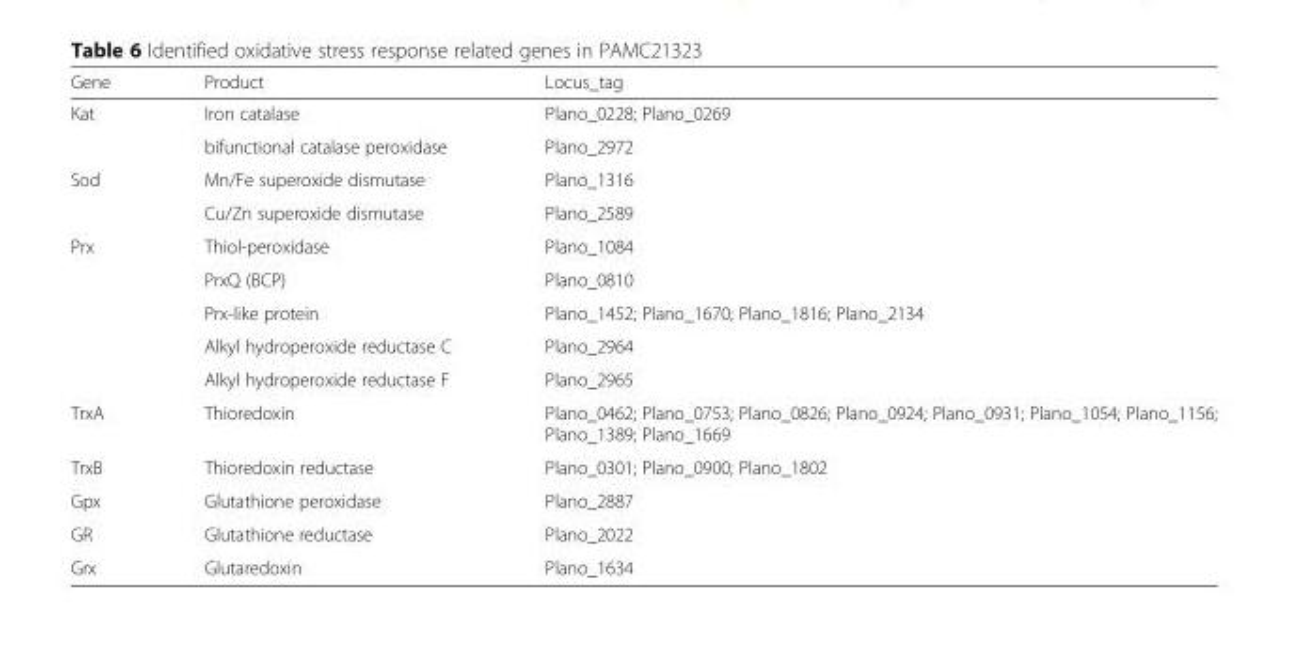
<table><thead><tr><td>Gene</td><td>Product</td><td>Locus_tag</td></tr></thead><tbody><tr><td rowspan="2">Kat</td><td>Iron catalase</td><td>Plano_0228; Plano_0269</td></tr><tr><td>bifunctional catalase peroxidase</td><td>Plano_2972</td></tr><tr><td rowspan="2">Sod</td><td>Mn/Fe superoxide dismutase</td><td>Plano_1316</td></tr><tr><td>Cu/Zn superoxide dismutase</td><td>Plano_2589</td></tr><tr><td rowspan="5">Prx</td><td>Thiol-peroxidase</td><td>Plano_1084</td></tr><tr><td>PrxQ (BCP)</td><td>Plano_0810</td></tr><tr><td>Prx-like protein</td><td>Plano_1452; Plano_1670; Plano_1816; Plano_2134</td></tr><tr><td>Alkyl hydroperoxide reductase C</td><td>Plano_2964</td></tr><tr><td>Alkyl hydroperoxide reductase F</td><td>Plano_2965</td></tr><tr><td>TrxA</td><td>Thioredoxin</td><td>Plano_0462; Plano_0753; Plano_0826; Plano_0924; Plano_0931; Plano_1054; Plano_1156; Plano_1389; Plano_1669</td></tr><tr><td>TrxB</td><td>Thioredoxin reductase</td><td>Plano_0301; Plano_0900; Plano_1802</td></tr><tr><td>Gpx</td><td>Glutathione peroxidase</td><td>Plano_2887</td></tr><tr><td>GR</td><td>Glutathione reductase</td><td>Plano_2022</td></tr><tr><td>Grx</td><td>Glutaredoxin</td><td>Plano_1634</td></tr></tbody></table>